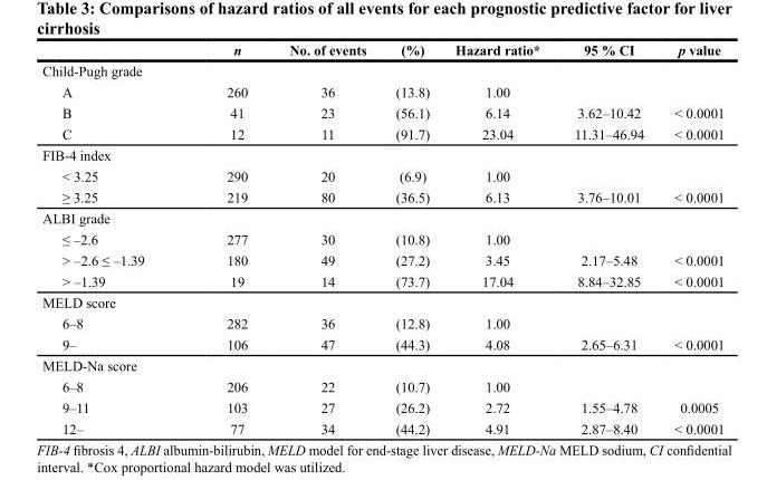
<table><thead><tr><td></td><td>n</td><td>No. of events</td><td>(%)</td><td>Hazard ratio*</td><td>95 % CI</td><td>p value</td></tr></thead><tbody><tr><td colspan="7">Child-Pugh grade</td></tr><tr><td>A</td><td>260</td><td>36</td><td>(13.8)</td><td>1.00</td><td></td><td></td></tr><tr><td>B</td><td>41</td><td>23</td><td>(56.1)</td><td>6.14</td><td>3.62–10.42</td><td>&lt; 0.0001</td></tr><tr><td>C</td><td>12</td><td>11</td><td>(91.7)</td><td>23.04</td><td>11.31–46.94</td><td>&lt; 0.0001</td></tr><tr><td colspan="7">FIB-4 index</td></tr><tr><td>&lt; 3.25</td><td>290</td><td>20</td><td>(6.9)</td><td>1.00</td><td></td><td></td></tr><tr><td>≥ 3.25</td><td>219</td><td>80</td><td>(36.5)</td><td>6.13</td><td>3.76–10.01</td><td>&lt; 0.0001</td></tr><tr><td colspan="7">ALBI grade</td></tr><tr><td>≤ –2.6</td><td>277</td><td>30</td><td>(10.8)</td><td>1.00</td><td></td><td></td></tr><tr><td>&gt; –2.6 ≤ –1.39</td><td>180</td><td>49</td><td>(27.2)</td><td>3.45</td><td>2.17–5.48</td><td>&lt; 0.0001</td></tr><tr><td>&gt; –1.39</td><td>19</td><td>14</td><td>(73.7)</td><td>17.04</td><td>8.84–32.85</td><td>&lt; 0.0001</td></tr><tr><td colspan="7">MELD score</td></tr><tr><td>6–8</td><td>282</td><td>36</td><td>(12.8)</td><td>1.00</td><td></td><td></td></tr><tr><td>9–</td><td>106</td><td>47</td><td>(44.3)</td><td>4.08</td><td>2.65–6.31</td><td>&lt; 0.0001</td></tr><tr><td colspan="7">MELD-Na score</td></tr><tr><td>6–8</td><td>206</td><td>22</td><td>(10.7)</td><td>1.00</td><td></td><td></td></tr><tr><td>9–11</td><td>103</td><td>27</td><td>(26.2)</td><td>2.72</td><td>1.55–4.78</td><td>0.0005</td></tr><tr><td>12–</td><td>77</td><td>34</td><td>(44.2)</td><td>4.91</td><td>2.87–8.40</td><td>&lt; 0.0001</td></tr></tbody></table>